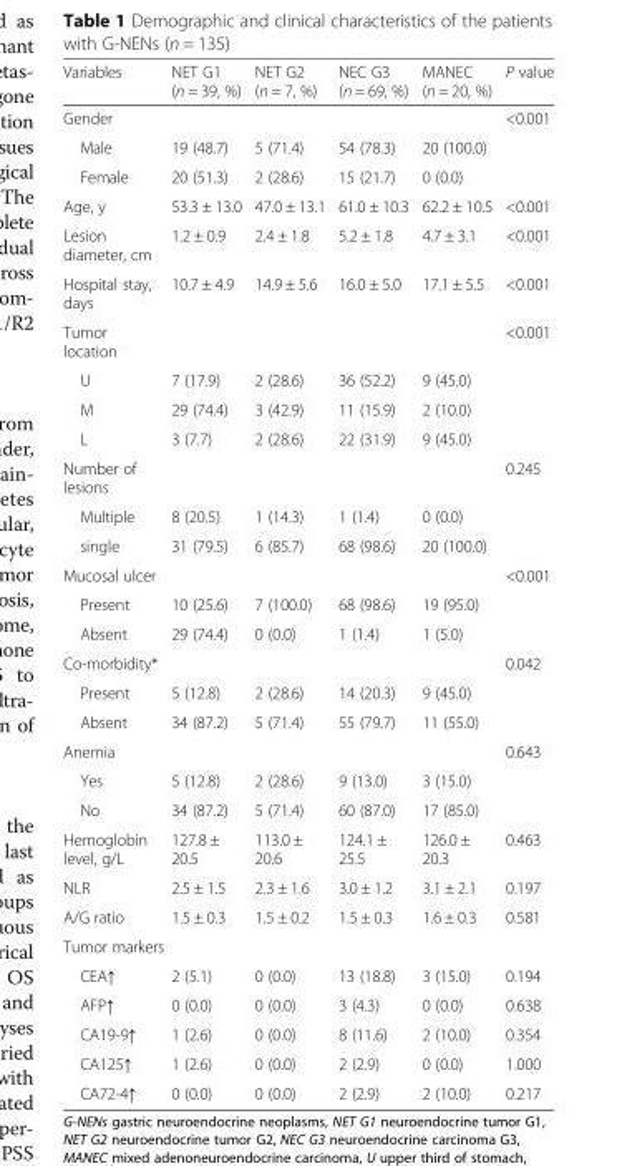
<table><thead><tr><td>Variables</td><td>NET G1 (n = 39, %)</td><td>NET G2 (n = 7, %)</td><td>NEC G3 (n = 69, %)</td><td>MANEC (n = 20, %)</td><td>P value</td></tr></thead><tbody><tr><td>Gender</td><td></td><td></td><td></td><td></td><td>&lt;0.001</td></tr><tr><td>Male</td><td>19 (48.7)</td><td>5 (71.4)</td><td>54 (78.3)</td><td>20 (100.0)</td><td></td></tr><tr><td>Female</td><td>20 (51.3)</td><td>2 (28.6)</td><td>15 (21.7)</td><td>0 (0.0)</td><td></td></tr><tr><td>Age, y</td><td>53.3 ± 13.0</td><td>47.0 ± 13.1</td><td>61.0 ± 10.3</td><td>62.2 ± 10.5</td><td>&lt;0.001</td></tr><tr><td>Lesion diameter, cm</td><td>1.2 ± 0.9</td><td>2.4 ± 1.8</td><td>5.2 ± 1.8</td><td>4.7 ± 3.1</td><td>&lt;0.001</td></tr><tr><td>Hospital stay, days</td><td>10.7 ± 4.9</td><td>14.9 ± 5.6</td><td>16.0 ± 5.0</td><td>17.1 ± 5.5</td><td>&lt;0.001</td></tr><tr><td>Tumor location</td><td></td><td></td><td></td><td></td><td>&lt;0.001</td></tr><tr><td>U</td><td>7 (17.9)</td><td>2 (28.6)</td><td>36 (52.2)</td><td>9 (45.0)</td><td></td></tr><tr><td>M</td><td>29 (74.4)</td><td>3 (42.9)</td><td>11 (15.9)</td><td>2 (10.0)</td><td></td></tr><tr><td>L</td><td>3 (7.7)</td><td>2 (28.6)</td><td>22 (31.9)</td><td>9 (45.0)</td><td></td></tr><tr><td>Number of lesions</td><td></td><td></td><td></td><td></td><td>0.245</td></tr><tr><td>Multiple</td><td>8 (20.5)</td><td>1 (14.3)</td><td>1 (1.4)</td><td>0 (0.0)</td><td></td></tr><tr><td>single</td><td>31 (79.5)</td><td>6 (85.7)</td><td>68 (98.6)</td><td>20 (100.0)</td><td></td></tr><tr><td>Mucosal ulcer</td><td></td><td></td><td></td><td></td><td>&lt;0.001</td></tr><tr><td>Present</td><td>10 (25.6)</td><td>7 (100.0)</td><td>68 (98.6)</td><td>19 (95.0)</td><td></td></tr><tr><td>Absent</td><td>29 (74.4)</td><td>0 (0.0)</td><td>1 (1.4)</td><td>1 (5.0)</td><td></td></tr><tr><td>Co-morbidity*</td><td></td><td></td><td></td><td></td><td>0.042</td></tr><tr><td>Present</td><td>5 (12.8)</td><td>2 (28.6)</td><td>14 (20.3)</td><td>9 (45.0)</td><td></td></tr><tr><td>Absent</td><td>34 (87.2)</td><td>5 (71.4)</td><td>55 (79.7)</td><td>11 (55.0)</td><td></td></tr><tr><td>Anemia</td><td></td><td></td><td></td><td></td><td>0.643</td></tr><tr><td>Yes</td><td>5 (12.8)</td><td>2 (28.6)</td><td>9 (13.0)</td><td>3 (15.0)</td><td></td></tr><tr><td>No</td><td>34 (87.2)</td><td>5 (71.4)</td><td>60 (87.0)</td><td>17 (85.0)</td><td></td></tr><tr><td>Hemoglobin level, g/L</td><td>127.8 ± 20.5</td><td>113.0 ± 20.6</td><td>124.1 ± 25.5</td><td>126.0 ± 20.3</td><td>0.463</td></tr><tr><td>NLR</td><td>2.5 ± 1.5</td><td>2.3 ± 1.6</td><td>3.0 ± 1.2</td><td>3.1 ± 2.1</td><td>0.197</td></tr><tr><td>A/G ratio</td><td>1.5 ± 0.3</td><td>1.5 ± 0.2</td><td>1.5 ± 0.3</td><td>1.6 ± 0.3</td><td>0.581</td></tr><tr><td colspan="6">Tumor markers</td></tr><tr><td>CEA↑</td><td>2 (5.1)</td><td>0 (0.0)</td><td>13 (18.8)</td><td>3 (15.0)</td><td>0.194</td></tr><tr><td>AFP↑</td><td>0 (0.0)</td><td>0 (0.0)</td><td>3 (4.3)</td><td>0 (0.0)</td><td>0.638</td></tr><tr><td>CA19-9↑</td><td>1 (2.6)</td><td>0 (0.0)</td><td>8 (11.6)</td><td>2 (10.0)</td><td>0.354</td></tr><tr><td>CA125↑</td><td>1 (2.6)</td><td>0 (0.0)</td><td>2 (2.9)</td><td>0 (0.0)</td><td>1.000</td></tr><tr><td>CA72-4↑</td><td>0 (0.0)</td><td>0 (0.0)</td><td>2 (2.9)</td><td>2 (10.0)</td><td>0.217</td></tr></tbody></table>